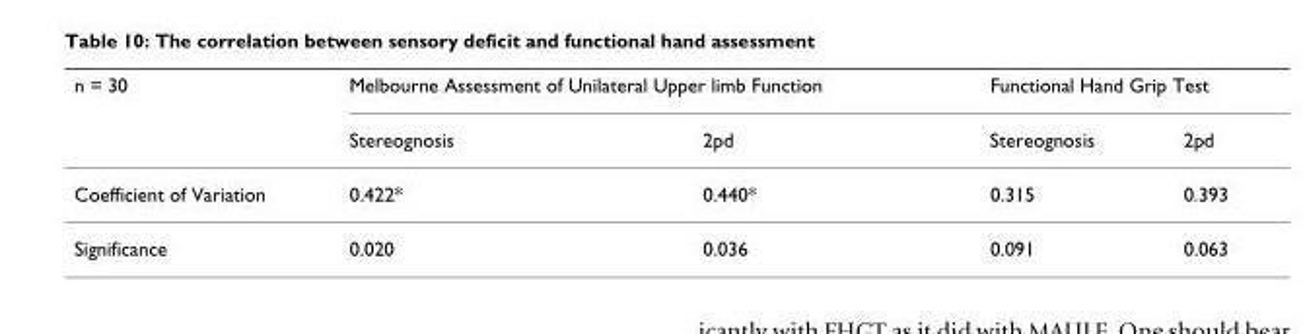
<table><thead><tr><td rowspan="2">n = 30</td><td colspan="2">Melbourne Assessment of Unilateral Upper limb Function</td><td colspan="2">Functional Hand Grip Test</td></tr><tr><td>Stereognosis</td><td>2pd</td><td>Stereognosis</td><td>2pd</td></tr></thead><tbody><tr><td>Coefficient of Variation</td><td>0.422*</td><td>0.440*</td><td>0.315</td><td>0.393</td></tr><tr><td>Significance</td><td>0.020</td><td>0.036</td><td>0.091</td><td>0.063</td></tr></tbody></table>